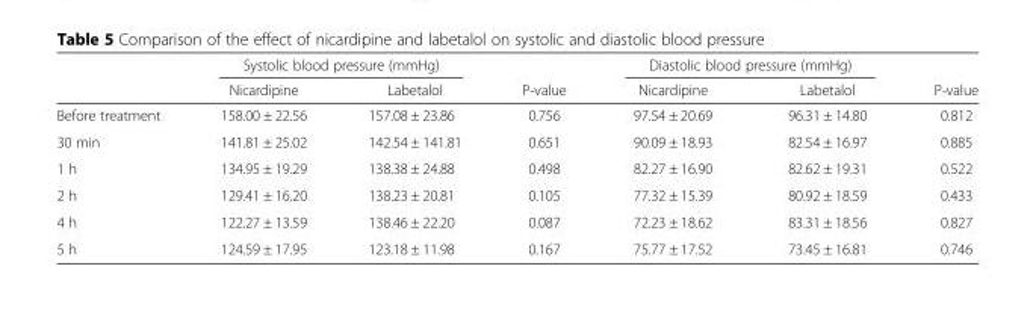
<table><thead><tr><td rowspan="2"></td><td colspan="2">Systolic blood pressure (mmHg)</td><td rowspan="2">P-value</td><td colspan="2">Diastolic blood pressure (mmHg)</td><td rowspan="2">P-value</td></tr><tr><td>Nicardipine</td><td>Labetalol</td><td>Nicardipine</td><td>Labetalol</td></tr></thead><tbody><tr><td>Before treatment</td><td>158.00 ± 22.56</td><td>157.08 ± 23.86</td><td>0.756</td><td>97.54 ± 20.69</td><td>96.31 ± 14.80</td><td>0.812</td></tr><tr><td>30 min</td><td>141.81 ± 25.02</td><td>142.54 ± 141.81</td><td>0.651</td><td>90.09 ± 18.93</td><td>82.54 ± 16.97</td><td>0.885</td></tr><tr><td>1 h</td><td>134.95 ± 19.29</td><td>138.38 ± 24.88</td><td>0.498</td><td>82.27 ± 16.90</td><td>82.62 ± 19.31</td><td>0.522</td></tr><tr><td>2 h</td><td>129.41 ± 16.20</td><td>138.23 ± 20.81</td><td>0.105</td><td>77.32 ± 15.39</td><td>80.92 ± 18.59</td><td>0.433</td></tr><tr><td>4 h</td><td>122.27 ± 13.59</td><td>138.46 ± 22.20</td><td>0.087</td><td>72.23 ± 18.62</td><td>83.31 ± 18.56</td><td>0.827</td></tr><tr><td>5 h</td><td>124.59 ± 17.95</td><td>123.18 ± 11.98</td><td>0.167</td><td>75.77 ± 17.52</td><td>73.45 ± 16.81</td><td>0.746</td></tr></tbody></table>